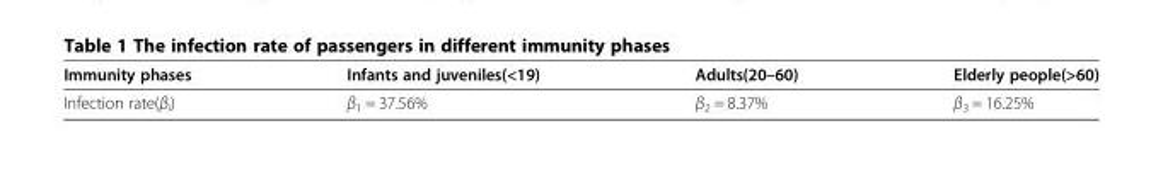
<table><thead><tr><td>Immunity phases</td><td>Infants and juveniles(&lt;19)</td><td>Adults(20–60)</td><td>Elderly people(&gt;60)</td></tr></thead><tbody><tr><td>Infection rate(β<sub>i</sub>)</td><td>β<sub>1</sub> = 37.56%</td><td>β<sub>2</sub> = 8.37%</td><td>β<sub>3</sub> = 16.25%</td></tr></tbody></table>